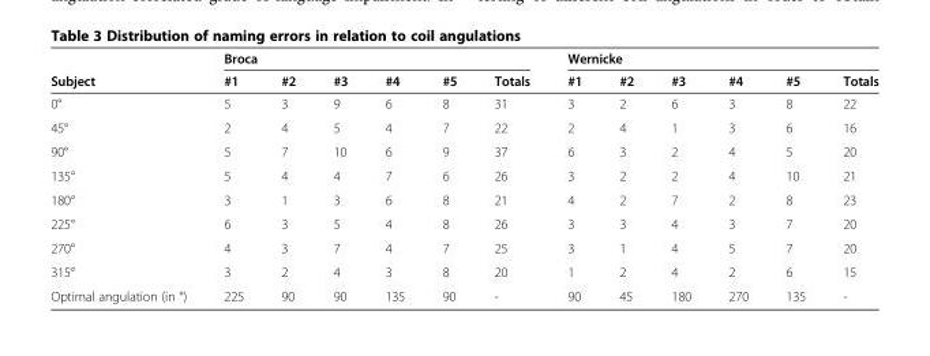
<table><thead><tr><td rowspan="2">Subject</td><td colspan="6">Broca</td><td colspan="6">Wernicke</td></tr><tr><td>#1</td><td>#2</td><td>#3</td><td>#4</td><td>#5</td><td>Totals</td><td>#1</td><td>#2</td><td>#3</td><td>#4</td><td>#5</td><td>Totals</td></tr></thead><tbody><tr><td>0°</td><td>5</td><td>3</td><td>9</td><td>6</td><td>8</td><td>31</td><td>3</td><td>2</td><td>6</td><td>3</td><td>8</td><td>22</td></tr><tr><td>45°</td><td>2</td><td>4</td><td>5</td><td>4</td><td>7</td><td>22</td><td>2</td><td>4</td><td>1</td><td>3</td><td>6</td><td>16</td></tr><tr><td>90°</td><td>5</td><td>7</td><td>10</td><td>6</td><td>9</td><td>37</td><td>6</td><td>3</td><td>2</td><td>4</td><td>5</td><td>20</td></tr><tr><td>135°</td><td>5</td><td>4</td><td>4</td><td>7</td><td>6</td><td>26</td><td>3</td><td>2</td><td>2</td><td>4</td><td>10</td><td>21</td></tr><tr><td>180°</td><td>3</td><td>1</td><td>3</td><td>6</td><td>8</td><td>21</td><td>4</td><td>2</td><td>7</td><td>2</td><td>8</td><td>23</td></tr><tr><td>225°</td><td>6</td><td>3</td><td>5</td><td>4</td><td>8</td><td>26</td><td>3</td><td>3</td><td>4</td><td>3</td><td>7</td><td>20</td></tr><tr><td>270°</td><td>4</td><td>3</td><td>7</td><td>4</td><td>7</td><td>25</td><td>3</td><td>1</td><td>4</td><td>5</td><td>7</td><td>20</td></tr><tr><td>315°</td><td>3</td><td>2</td><td>4</td><td>3</td><td>8</td><td>20</td><td>1</td><td>2</td><td>4</td><td>2</td><td>6</td><td>15</td></tr><tr><td>Optimal angulation (in °)</td><td>225</td><td>90</td><td>90</td><td>135</td><td>90</td><td>-</td><td>90</td><td>45</td><td>180</td><td>270</td><td>135</td><td>-</td></tr></tbody></table>